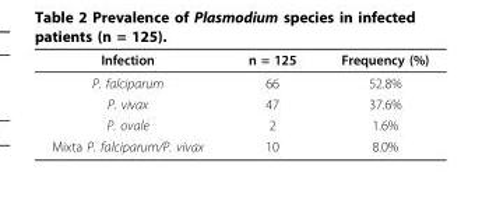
<table><thead><tr><td>Infection</td><td>n = 125</td><td>Frequency (%)</td></tr></thead><tbody><tr><td>P. falciparum</td><td>66</td><td>52.8%</td></tr><tr><td>P. vivax</td><td>47</td><td>37.6%</td></tr><tr><td>P. ovale</td><td>2</td><td>1.6%</td></tr><tr><td>Mixta P. falciparum/P. vivax</td><td>10</td><td>8.0%</td></tr></tbody></table>